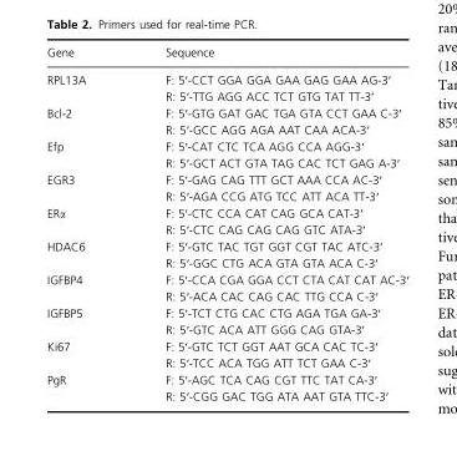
<table><thead><tr><td>Gene</td><td>Sequence</td></tr></thead><tbody><tr><td rowspan="2">RPL13A</td><td>F: 5′-CCT GGA GGA GAA GAG GAA AG-3′</td></tr><tr><td>R: 5′-TTG AGG ACC TCT GTG TAT TT-3′</td></tr><tr><td rowspan="2">Bcl-2</td><td>F: 5′-GTG GAT GAC TGA GTA CCT GAA C-3′</td></tr><tr><td>R: 5′-GCC AGG AGA AAT CAA ACA-3′</td></tr><tr><td rowspan="2">Efp</td><td>F: 5′-CAT CTC TCA AGG CCA AGG-3′</td></tr><tr><td>R: 5′-GCT ACT GTA TAG CAC TCT GAG A-3′</td></tr><tr><td rowspan="2">EGR3</td><td>F: 5′-GAG CAG TTT GCT AAA CCA AC-3′</td></tr><tr><td>R: 5′-AGA CCG ATG TCC ATT ACA TT-3′</td></tr><tr><td rowspan="2">ERα</td><td>F: 5′-CTC CCA CAT CAG GCA CAT-3′</td></tr><tr><td>R: 5′-CTC CAG CAG CAG GTC ATA-3′</td></tr><tr><td rowspan="2">HDAC6</td><td>F: 5′-GTC TAC TGT GGT CGT TAC ATC-3′</td></tr><tr><td>R: 5′-GGC CTG ACA GTA GTA ACA C-3′</td></tr><tr><td rowspan="2">IGFBP4</td><td>F: 5′-CCA CGA GGA CCT CTA CAT CAT AC-3′</td></tr><tr><td>R: 5′-ACA CAC CAG CAC TTG CCA C-3′</td></tr><tr><td rowspan="2">IGFBP5</td><td>F: 5′-TCT CTG CAC CTG AGA TGA GA-3′</td></tr><tr><td>R: 5′-GTC ACA ATT GGG CAG GTA-3′</td></tr><tr><td rowspan="2">Ki67</td><td>F: 5′-GTC TCT GGT AAT GCA CAC TC-3′</td></tr><tr><td>R: 5′-TCC ACA TGG ATT TCT GAA C-3′</td></tr><tr><td rowspan="2">PgR</td><td>F: 5′-AGC TCA CAG CGT TTC TAT CA-3′</td></tr><tr><td>R: 5′-CGG GAC TGG ATA AAT GTA TTC-3′</td></tr></tbody></table>